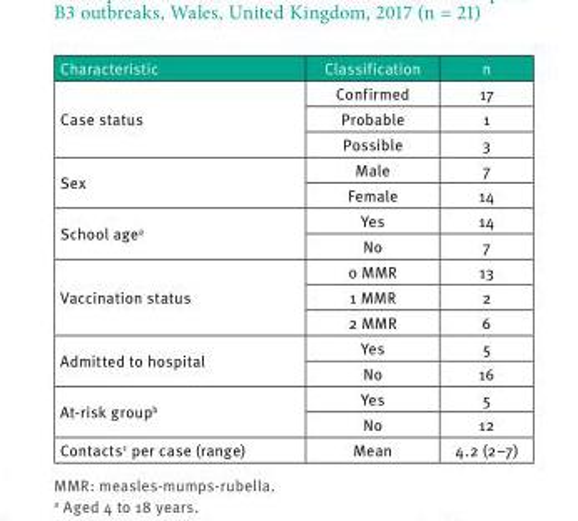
<table><thead><tr><td>Characteristic</td><td>Classification</td><td>n</td></tr></thead><tbody><tr><td rowspan="3">Case status</td><td>Confirmed</td><td>17</td></tr><tr><td>Probable</td><td>1</td></tr><tr><td>Possible</td><td>3</td></tr><tr><td rowspan="2">Sex</td><td>Male</td><td>7</td></tr><tr><td>Female</td><td>14</td></tr><tr><td rowspan="2">School age<sup>a</sup></td><td>Yes</td><td>14</td></tr><tr><td>No</td><td>7</td></tr><tr><td rowspan="3">Vaccination status</td><td>0 MMR</td><td>13</td></tr><tr><td>1 MMR</td><td>2</td></tr><tr><td>2 MMR</td><td>6</td></tr><tr><td rowspan="2">Admitted to hospital</td><td>Yes</td><td>5</td></tr><tr><td>No</td><td>16</td></tr><tr><td rowspan="2">At-risk group<sup>b</sup></td><td>Yes</td><td>5</td></tr><tr><td>No</td><td>12</td></tr><tr><td>Contacts<sup>c</sup> per case (range)</td><td>Mean</td><td>4.2 (2–7)</td></tr></tbody></table>